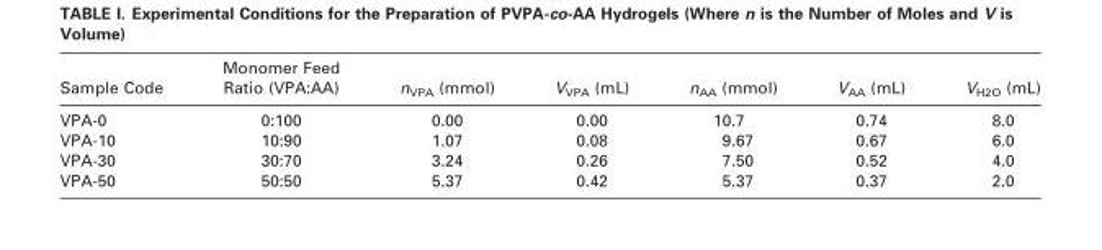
<table><thead><tr><td>Sample Code</td><td>Monomer Feed Ratio (VPA:AA)</td><td>n<sub>VPA</sub> (mmol)</td><td>V<sub>VPA</sub> (mL)</td><td>n<sub>AA</sub> (mmol)</td><td>V<sub>AA</sub> (mL)</td><td>V<sub>H2O</sub> (mL)</td></tr></thead><tbody><tr><td>VPA-0</td><td>0:100</td><td>0.00</td><td>0.00</td><td>10.7</td><td>0.74</td><td>8.0</td></tr><tr><td>VPA-10</td><td>10:90</td><td>1.07</td><td>0.08</td><td>9.67</td><td>0.67</td><td>6.0</td></tr><tr><td>VPA-30</td><td>30:70</td><td>3.24</td><td>0.26</td><td>7.50</td><td>0.52</td><td>4.0</td></tr><tr><td>VPA-50</td><td>50:50</td><td>5.37</td><td>0.42</td><td>5.37</td><td>0.37</td><td>2.0</td></tr></tbody></table>